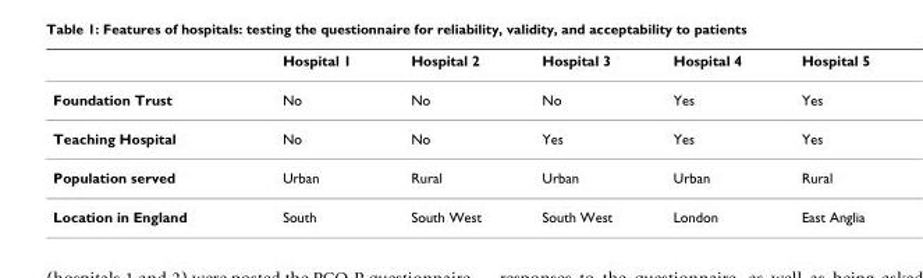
<table><thead><tr><td></td><td>Hospital 1</td><td>Hospital 2</td><td>Hospital 3</td><td>Hospital 4</td><td>Hospital 5</td></tr></thead><tbody><tr><td>Foundation Trust</td><td>No</td><td>No</td><td>No</td><td>Yes</td><td>Yes</td></tr><tr><td>Teaching Hospital</td><td>No</td><td>No</td><td>Yes</td><td>Yes</td><td>Yes</td></tr><tr><td>Population served</td><td>Urban</td><td>Rural</td><td>Urban</td><td>Urban</td><td>Rural</td></tr><tr><td>Location in England</td><td>South</td><td>South West</td><td>South West</td><td>London</td><td>East Anglia</td></tr></tbody></table>